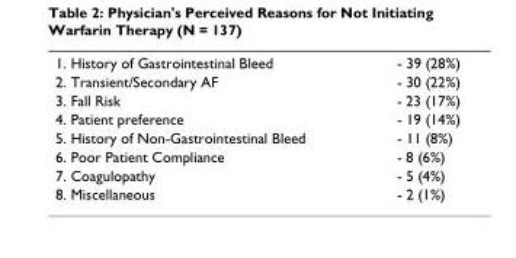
<table><tbody><tr><td>1. History of Gastrointestinal Bleed</td><td>- 39 (28%)</td></tr><tr><td>2. Transient/Secondary AF</td><td>- 30 (22%)</td></tr><tr><td>3. Fall Risk</td><td>- 23 (17%)</td></tr><tr><td>4. Patient preference</td><td>- 19 (14%)</td></tr><tr><td>5. History of Non-Gastrointestinal Bleed</td><td>- 11 (8%)</td></tr><tr><td>6. Poor Patient Compliance</td><td>- 8 (6%)</td></tr><tr><td>7. Coagulopathy</td><td>- 5 (4%)</td></tr><tr><td>8. Miscellaneous</td><td>- 2 (1%)</td></tr></tbody></table>